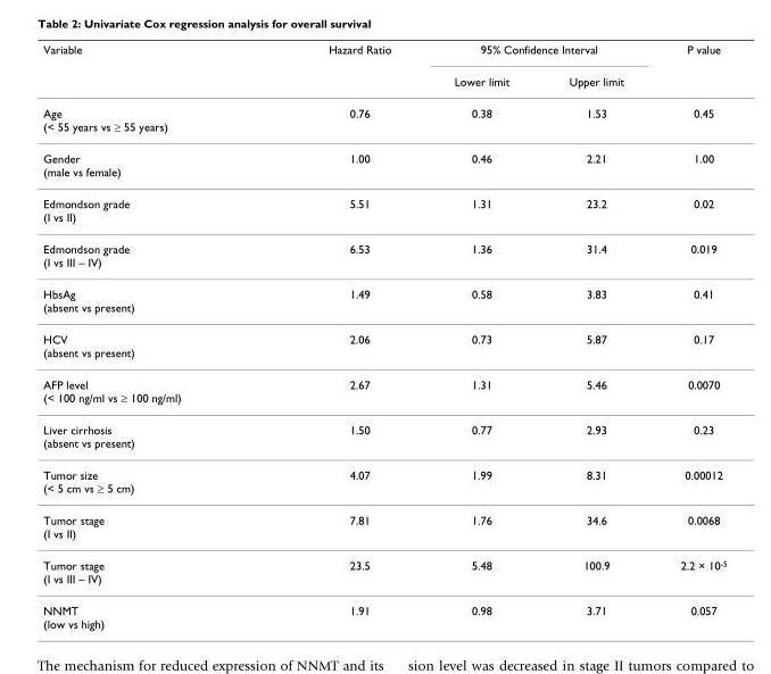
<table><thead><tr><td rowspan="2">Variable</td><td rowspan="2">Hazard Ratio</td><td colspan="2">95% Confidence Interval</td><td rowspan="2">P value</td></tr><tr><td>Lower limit</td><td>Upper limit</td></tr></thead><tbody><tr><td>Age (&lt; 55 years vs ≥ 55 years)</td><td>0.76</td><td>0.38</td><td>1.53</td><td>0.45</td></tr><tr><td>Gender (male vs female)</td><td>1.00</td><td>0.46</td><td>2.21</td><td>1.00</td></tr><tr><td>Edmondson grade (I vs II)</td><td>5.51</td><td>1.31</td><td>23.2</td><td>0.02</td></tr><tr><td>Edmondson grade (I vs III – IV)</td><td>6.53</td><td>1.36</td><td>31.4</td><td>0.019</td></tr><tr><td>HbsAg (absent vs present)</td><td>1.49</td><td>0.58</td><td>3.83</td><td>0.41</td></tr><tr><td>HCV (absent vs present)</td><td>2.06</td><td>0.73</td><td>5.87</td><td>0.17</td></tr><tr><td>AFP level (&lt; 100 ng/ml vs ≥ 100 ng/ml)</td><td>2.67</td><td>1.31</td><td>5.46</td><td>0.0070</td></tr><tr><td>Liver cirrhosis (absent vs present)</td><td>1.50</td><td>0.77</td><td>2.93</td><td>0.23</td></tr><tr><td>Tumor size (&lt; 5 cm vs ≥ 5 cm)</td><td>4.07</td><td>1.99</td><td>8.31</td><td>0.00012</td></tr><tr><td>Tumor stage (I vs II)</td><td>7.81</td><td>1.76</td><td>34.6</td><td>0.0068</td></tr><tr><td>Tumor stage (I vs III – IV)</td><td>23.5</td><td>5.48</td><td>100.9</td><td>2.2 × 10<sup>-5</sup></td></tr><tr><td>NNMT (low vs high)</td><td>1.91</td><td>0.98</td><td>3.71</td><td>0.057</td></tr></tbody></table>